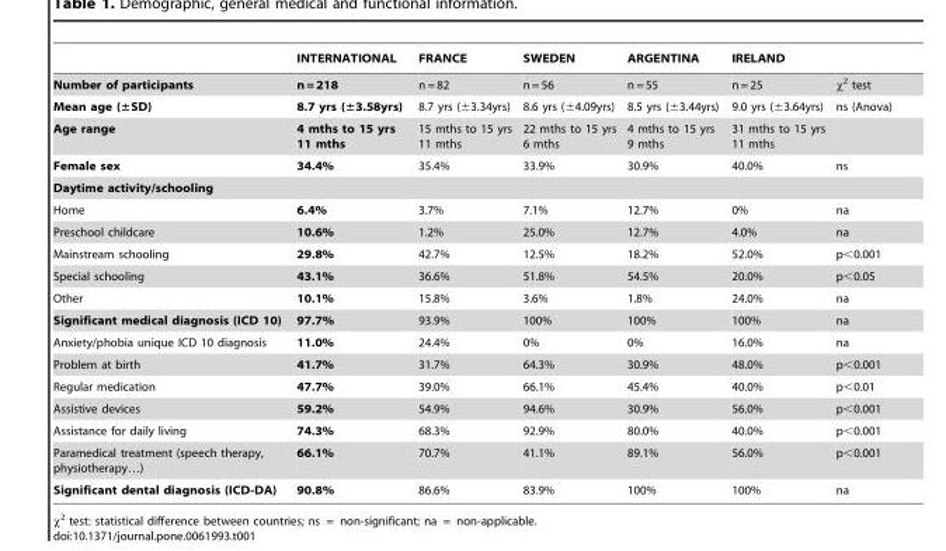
<table><thead><tr><td></td><td>INTERNATIONAL</td><td>FRANCE</td><td>SWEDEN</td><td>ARGENTINA</td><td>IRELAND</td><td></td></tr></thead><tbody><tr><td>Number of participants</td><td>n = 218</td><td>n = 82</td><td>n = 56</td><td>n = 55</td><td>n = 25</td><td>x2 test</td></tr><tr><td>Mean age (±SD)</td><td>8.7 yrs (±3.58yrs)</td><td>8.7 yrs (±3.34yrs)</td><td>8.6 yrs (±4.09yrs)</td><td>8.5 yrs (±3.44yrs)</td><td>9.0 yrs (±3.64yrs)</td><td>ns (Anova)</td></tr><tr><td>Age range</td><td>4 mths to 15 yrs 11 mths</td><td>15 mths to 15 yrs 11 mths</td><td>22 mths to 15 yrs 6 mths</td><td>4 mths to 15 yrs 9 mths</td><td>31 mths to 15 yrs 11 mths</td><td></td></tr><tr><td>Female sex</td><td>34.4%</td><td>35.4%</td><td>33.9%</td><td>30.9%</td><td>40.0%</td><td>ns</td></tr><tr><td colspan="7">Daytime activity/schooling</td></tr><tr><td>Home</td><td>6.4%</td><td>3.7%</td><td>7.1%</td><td>12.7%</td><td>0%</td><td>na</td></tr><tr><td>Preschool childcare</td><td>10.6%</td><td>1.2%</td><td>25.0%</td><td>12.7%</td><td>4.0%</td><td>na</td></tr><tr><td>Mainstream schooling</td><td>29.8%</td><td>42.7%</td><td>12.5%</td><td>18.2%</td><td>52.0%</td><td>p&lt;0.001</td></tr><tr><td>Special schooling</td><td>43.1%</td><td>36.6%</td><td>51.8%</td><td>54.5%</td><td>20.0%</td><td>p&lt;0.05</td></tr><tr><td>Other</td><td>10.1%</td><td>15.8%</td><td>3.6%</td><td>1.8%</td><td>24.0%</td><td>na</td></tr><tr><td>Significant medical diagnosis (ICD 10)</td><td>97.7%</td><td>93.9%</td><td>100%</td><td>100%</td><td>100%</td><td>na</td></tr><tr><td>Anxiety/phobia unique ICD 10 diagnosis</td><td>11.0%</td><td>24.4%</td><td>0%</td><td>0%</td><td>16.0%</td><td>na</td></tr><tr><td>Problem at birth</td><td>41.7%</td><td>31.7%</td><td>64.3%</td><td>30.9%</td><td>48.0%</td><td>p&lt;0.001</td></tr><tr><td>Regular medication</td><td>47.7%</td><td>39.0%</td><td>66.1%</td><td>45.4%</td><td>40.0%</td><td>p&lt;0.01</td></tr><tr><td>Assistive devices</td><td>59.2%</td><td>54.9%</td><td>94.6%</td><td>30.9%</td><td>56.0%</td><td>p&lt;0.001</td></tr><tr><td>Assistance for daily living</td><td>74.3%</td><td>68.3%</td><td>92.9%</td><td>80.0%</td><td>40.0%</td><td>p&lt;0.001</td></tr><tr><td>Paramedical treatment (speech therapy, physiotherapy…)</td><td>66.1%</td><td>70.7%</td><td>41.1%</td><td>89.1%</td><td>56.0%</td><td>p&lt;0.001</td></tr><tr><td>Significant dental diagnosis (ICD-DA)</td><td>90.8%</td><td>86.6%</td><td>83.9%</td><td>100%</td><td>100%</td><td>na</td></tr></tbody></table>